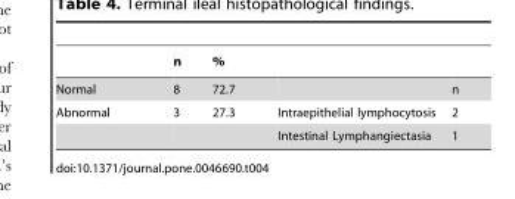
<table><thead><tr><td></td><td>n</td><td>%</td><td></td><td></td></tr></thead><tbody><tr><td>Normal</td><td>8</td><td>72.7</td><td></td><td>n</td></tr><tr><td rowspan="2">Abnormal</td><td>3</td><td>27.3</td><td>Intraepithelial lymphocytosis</td><td>2</td></tr><tr><td></td><td></td><td>Intestinal Lymphangiectasia</td><td>1</td></tr></tbody></table>